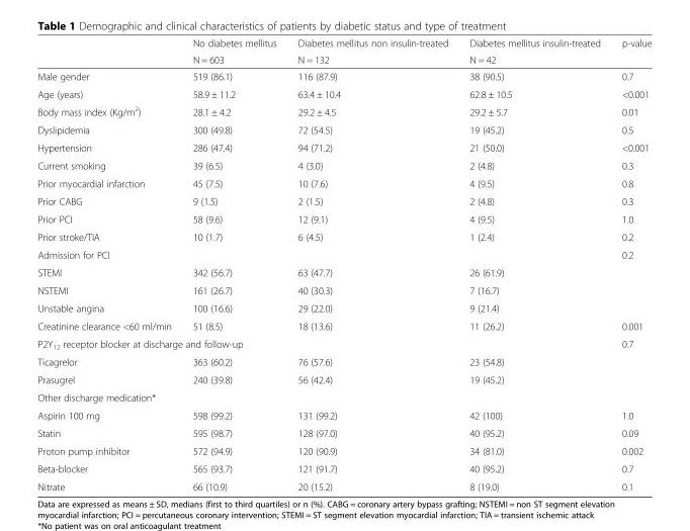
<table><thead><tr><td rowspan="2"></td><td rowspan="2">No diabetes mellitus N = 603</td><td rowspan="2">Diabetes mellitus non insulin-treated N = 132</td><td rowspan="2">Diabetes mellitus insulin-treated N = 42</td><td rowspan="2">p-value</td></tr><tr></tr></thead><tbody><tr><td>Male gender</td><td>519 (86.1)</td><td>116 (87.9)</td><td>38 (90.5)</td><td>0.7</td></tr><tr><td>Age (years)</td><td>58.9 ± 11.2</td><td>63.4 ± 10.4</td><td>62.8 ± 10.5</td><td>&lt;0.001</td></tr><tr><td>Body mass index (Kg/m<sup>2</sup>)</td><td>28.1 ± 4.2</td><td>29.2 ± 4.5</td><td>29.2 ± 5.7</td><td>0.01</td></tr><tr><td>Dyslipidemia</td><td>300 (49.8)</td><td>72 (54.5)</td><td>19 (45.2)</td><td>0.5</td></tr><tr><td>Hypertension</td><td>286 (47.4)</td><td>94 (71.2)</td><td>21 (50.0)</td><td>&lt;0.001</td></tr><tr><td>Current smoking</td><td>39 (6.5)</td><td>4 (3.0)</td><td>2 (4.8)</td><td>0.3</td></tr><tr><td>Prior myocardial infarction</td><td>45 (7.5)</td><td>10 (7.6)</td><td>4 (9.5)</td><td>0.8</td></tr><tr><td>Prior CABG</td><td>9 (1.5)</td><td>2 (1.5)</td><td>2 (4.8)</td><td>0.3</td></tr><tr><td>Prior PCI</td><td>58 (9.6)</td><td>12 (9.1)</td><td>4 (9.5)</td><td>1.0</td></tr><tr><td>Prior stroke/TIA</td><td>10 (1.7)</td><td>6 (4.5)</td><td>1 (2.4)</td><td>0.2</td></tr><tr><td colspan="3">Admission for PCI</td><td></td><td>0.2</td></tr><tr><td>STEMI</td><td>342 (56.7)</td><td>63 (47.7)</td><td>26 (61.9)</td><td></td></tr><tr><td>NSTEMI</td><td>161 (26.7)</td><td>40 (30.3)</td><td>7 (16.7)</td><td></td></tr><tr><td>Unstable angina</td><td>100 (16.6)</td><td>29 (22.0)</td><td>9 (21.4)</td><td></td></tr><tr><td>Creatinine clearance &lt;60 ml/min</td><td>51 (8.5)</td><td>18 (13.6)</td><td>11 (26.2)</td><td>0.001</td></tr><tr><td colspan="4">P2Y<sub>12</sub> receptor blocker at discharge and follow-up</td><td>0.7</td></tr><tr><td>Ticagrelor</td><td>363 (60.2)</td><td>76 (57.6)</td><td>23 (54.8)</td><td></td></tr><tr><td>Prasugrel</td><td>240 (39.8)</td><td>56 (42.4)</td><td>19 (45.2)</td><td></td></tr><tr><td colspan="5">Other discharge medication*</td></tr><tr><td>Aspirin 100 mg</td><td>598 (99.2)</td><td>131 (99.2)</td><td>42 (100)</td><td>1.0</td></tr><tr><td>Statin</td><td>595 (98.7)</td><td>128 (97.0)</td><td>40 (95.2)</td><td>0.09</td></tr><tr><td>Proton pump inhibitor</td><td>572 (94.9)</td><td>120 (90.9)</td><td>34 (81.0)</td><td>0.002</td></tr><tr><td>Beta-blocker</td><td>565 (93.7)</td><td>121 (91.7)</td><td>40 (95.2)</td><td>0.7</td></tr><tr><td>Nitrate</td><td>66 (10.9)</td><td>20 (15.2)</td><td>8 (19.0)</td><td>0.1</td></tr></tbody></table>